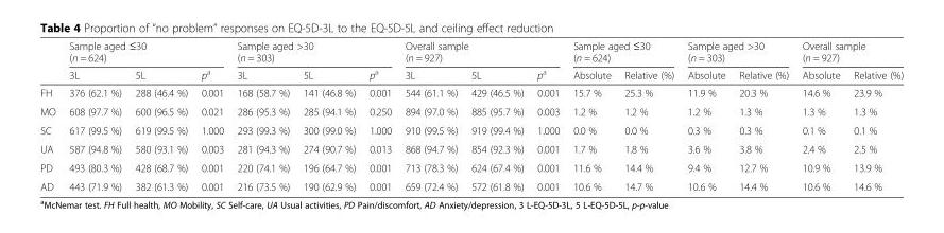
<table><thead><tr><td rowspan="2"></td><td colspan="3">Sample aged ≤30 (n = 624)</td><td colspan="3">Sample aged &gt;30 (n = 303)</td><td colspan="3">Overall sample (n = 927)</td><td colspan="2">Sample aged ≤30 (n = 624)</td><td colspan="2">Sample aged &gt;30 (n = 303)</td><td colspan="2">Overall sample (n = 927)</td></tr><tr><td>3L</td><td>5L</td><td>p<sup>a</sup></td><td>3L</td><td>5L</td><td>p<sup>a</sup></td><td>3L</td><td>5L</td><td>p<sup>a</sup></td><td>Absolute</td><td>Relative (%)</td><td>Absolute</td><td>Relative (%)</td><td>Absolute</td><td>Relative (%)</td></tr></thead><tbody><tr><td>FH</td><td>376 (62.1 %)</td><td>288 (46.4 %)</td><td>0.001</td><td>168 (58.7 %)</td><td>141 (46.8 %)</td><td>0.001</td><td>544 (61.1 %)</td><td>429 (46.5 %)</td><td>0.001</td><td>15.7 %</td><td>25.3 %</td><td>11.9 %</td><td>20.3 %</td><td>14.6 %</td><td>23.9 %</td></tr><tr><td>MO</td><td>608 (97.7 %)</td><td>600 (96.5 %)</td><td>0.021</td><td>286 (95.3 %)</td><td>285 (94.1 %)</td><td>0.250</td><td>894 (97.0 %)</td><td>885 (95.7 %)</td><td>0.003</td><td>1.2 %</td><td>1.2 %</td><td>1.2 %</td><td>1.3 %</td><td>1.3 %</td><td>1.3 %</td></tr><tr><td>SC</td><td>617 (99.5 %)</td><td>619 (99.5 %)</td><td>1.000</td><td>293 (99.3 %)</td><td>300 (99.0 %)</td><td>1.000</td><td>910 (99.5 %)</td><td>919 (99.4 %)</td><td>1.000</td><td>0.0 %</td><td>0.0 %</td><td>0.3 %</td><td>0.3 %</td><td>0.1 %</td><td>0.1 %</td></tr><tr><td>UA</td><td>587 (94.8 %)</td><td>580 (93.1 %)</td><td>0.003</td><td>281 (94.3 %)</td><td>274 (90.7 %)</td><td>0.013</td><td>868 (94.7 %)</td><td>854 (92.3 %)</td><td>0.001</td><td>1.7 %</td><td>1.8 %</td><td>3.6 %</td><td>3.8 %</td><td>2.4 %</td><td>2.5 %</td></tr><tr><td>PD</td><td>493 (80.3 %)</td><td>428 (68.7 %)</td><td>0.001</td><td>220 (74.1 %)</td><td>196 (64.7 %)</td><td>0.001</td><td>713 (78.3 %)</td><td>624 (67.4 %)</td><td>0.001</td><td>11.6 %</td><td>14.4 %</td><td>9.4 %</td><td>12.7 %</td><td>10.9 %</td><td>13.9 %</td></tr><tr><td>AD</td><td>443 (71.9 %)</td><td>382 (61.3 %)</td><td>0.001</td><td>216 (73.5 %)</td><td>190 (62.9 %)</td><td>0.001</td><td>659 (72.4 %)</td><td>572 (61.8 %)</td><td>0.001</td><td>10.6 %</td><td>14.7 %</td><td>10.6 %</td><td>14.4 %</td><td>10.6 %</td><td>14.6 %</td></tr></tbody></table>